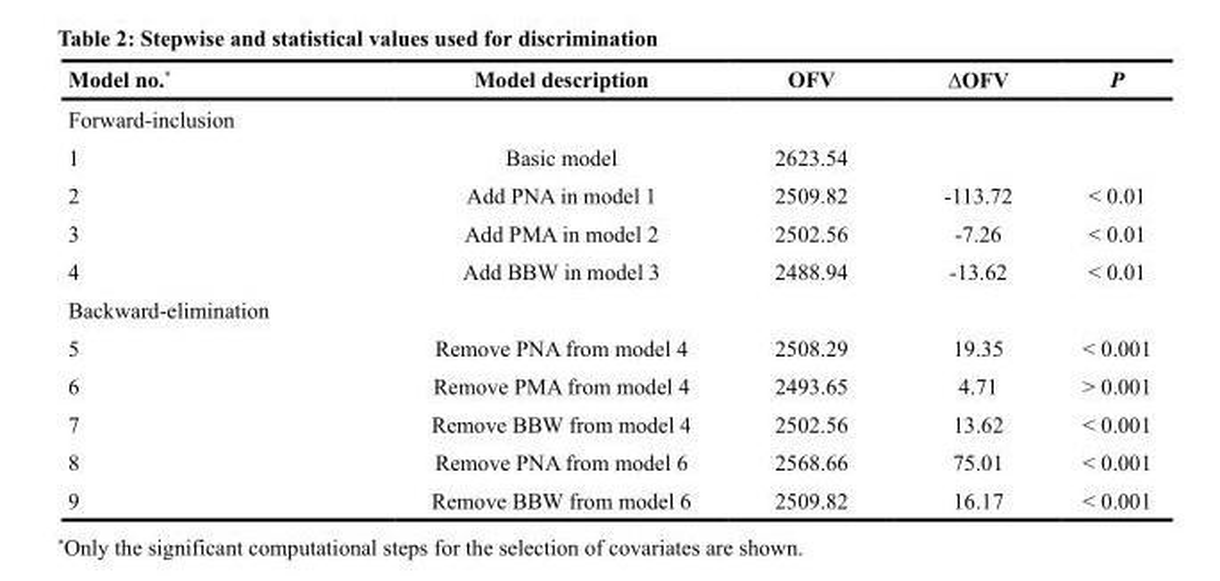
<table><thead><tr><td>Model no.*</td><td>Model description</td><td>OFV</td><td>∆OFV</td><td>P</td></tr></thead><tbody><tr><td colspan="5">Forward-inclusion</td></tr><tr><td>1</td><td>Basic model</td><td>2623.54</td><td></td><td></td></tr><tr><td>2</td><td>Add PNA in model 1</td><td>2509.82</td><td>-113.72</td><td>&lt; 0.01</td></tr><tr><td>3</td><td>Add PMA in model 2</td><td>2502.56</td><td>-7.26</td><td>&lt; 0.01</td></tr><tr><td>4</td><td>Add BBW in model 3</td><td>2488.94</td><td>-13.62</td><td>&lt; 0.01</td></tr><tr><td colspan="5">Backward-elimination</td></tr><tr><td>5</td><td>Remove PNA from model 4</td><td>2508.29</td><td>19.35</td><td>&lt; 0.001</td></tr><tr><td>6</td><td>Remove PMA from model 4</td><td>2493.65</td><td>4.71</td><td>&gt; 0.001</td></tr><tr><td>7</td><td>Remove BBW from model 4</td><td>2502.56</td><td>13.62</td><td>&lt; 0.001</td></tr><tr><td>8</td><td>Remove PNA from model 6</td><td>2568.66</td><td>75.01</td><td>&lt; 0.001</td></tr><tr><td>9</td><td>Remove BBW from model 6</td><td>2509.82</td><td>16.17</td><td>&lt; 0.001</td></tr></tbody></table>